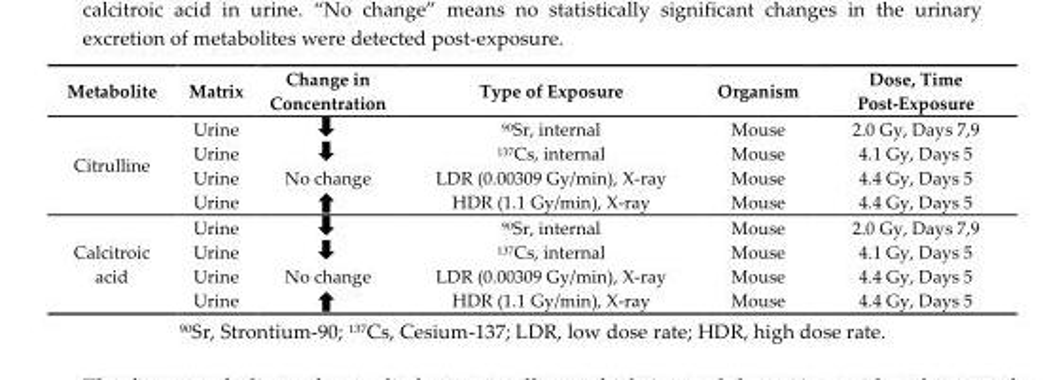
<table><thead><tr><td>Metabolite</td><td>Matrix</td><td>Change in Concentration</td><td>Type of Exposure</td><td>Organism</td><td>Dose, Time Post-Exposure</td></tr></thead><tbody><tr><td rowspan="4">Citrulline</td><td>Urine</td><td></td><td><sup>90</sup>Sr, internal</td><td>Mouse</td><td>2.0 Gy, Days 7,9</td></tr><tr><td>Urine</td><td></td><td><sup>137</sup>Cs, internal</td><td>Mouse</td><td>4.1 Gy, Days 5</td></tr><tr><td>Urine</td><td>No change</td><td>LDR (0.00309 Gy/min), X-ray</td><td>Mouse</td><td>4.4 Gy, Days 5</td></tr><tr><td>Urine</td><td></td><td>HDR (1.1 Gy/min), X-ray</td><td>Mouse</td><td>4.4 Gy, Days 5</td></tr><tr><td rowspan="4">Calcitroic acid</td><td>Urine</td><td></td><td><sup>90</sup>Sr, internal</td><td>Mouse</td><td>2.0 Gy, Days 7,9</td></tr><tr><td>Urine</td><td></td><td><sup>137</sup>Cs, internal</td><td>Mouse</td><td>4.1 Gy, Days 5</td></tr><tr><td>Urine</td><td>No change</td><td>LDR (0.00309 Gy/min), X-ray</td><td>Mouse</td><td>4.4 Gy, Days 5</td></tr><tr><td>Urine</td><td></td><td>HDR (1.1 Gy/min), X-ray</td><td>Mouse</td><td>4.4 Gy, Days 5</td></tr></tbody></table>